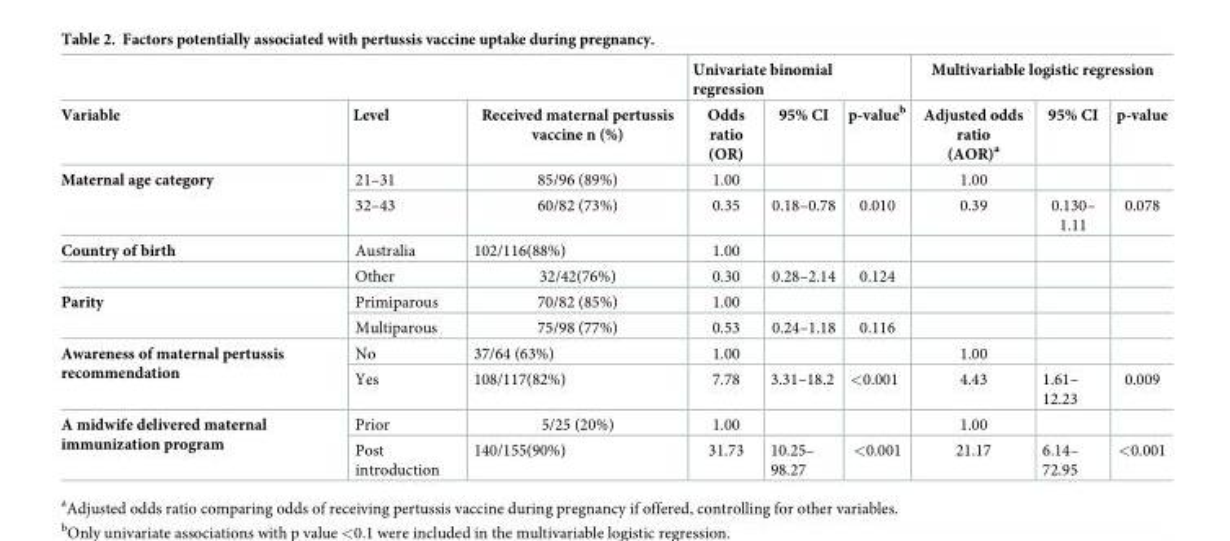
<table><thead><tr><td rowspan="2">Variable</td><td rowspan="2">Level</td><td rowspan="2">Received maternal pertussis vaccine n (%)</td><td colspan="3">Univariate binomial regression</td><td colspan="3">Multivariable logistic regression</td></tr><tr><td>Odds ratio (OR)</td><td>95% CI</td><td>p-value<sup>b</sup></td><td>Adjusted odds ratio (AOR)<sup>a</sup></td><td>95% CI</td><td>p-value</td></tr></thead><tbody><tr><td rowspan="2">Maternal age category</td><td>21–31</td><td>85/96 (89%)</td><td>1.00</td><td></td><td></td><td>1.00</td><td></td><td></td></tr><tr><td>32–43</td><td>60/82 (73%)</td><td>0.35</td><td>0.18–0.78</td><td>0.010</td><td>0.39</td><td>0.130– 1.11</td><td>0.078</td></tr><tr><td rowspan="2">Country of birth</td><td>Australia</td><td>102/116(88%)</td><td>1.00</td><td></td><td></td><td></td><td></td><td></td></tr><tr><td>Other</td><td>32/42(76%)</td><td>0.30</td><td>0.28–2.14</td><td>0.124</td><td></td><td></td><td></td></tr><tr><td rowspan="2">Parity</td><td>Primiparous</td><td>70/82 (85%)</td><td>1.00</td><td></td><td></td><td></td><td></td><td></td></tr><tr><td>Multiparous</td><td>75/98 (77%)</td><td>0.53</td><td>0.24–1.18</td><td>0.116</td><td></td><td></td><td></td></tr><tr><td rowspan="2">Awareness of maternal pertussis recommendation</td><td>No</td><td>37/64 (63%)</td><td>1.00</td><td></td><td></td><td>1.00</td><td></td><td></td></tr><tr><td>Yes</td><td>108/117(82%)</td><td>7.78</td><td>3.31–18.2</td><td>&lt;0.001</td><td>4.43</td><td>1.61– 12.23</td><td>0.009</td></tr><tr><td rowspan="2">A midwife delivered maternal immunization program</td><td>Prior</td><td>5/25 (20%)</td><td>1.00</td><td></td><td></td><td>1.00</td><td></td><td></td></tr><tr><td>Post introduction</td><td>140/155(90%)</td><td>31.73</td><td>10.25– 98.27</td><td>&lt;0.001</td><td>21.17</td><td>6.14– 72.95</td><td>&lt;0.001</td></tr></tbody></table>